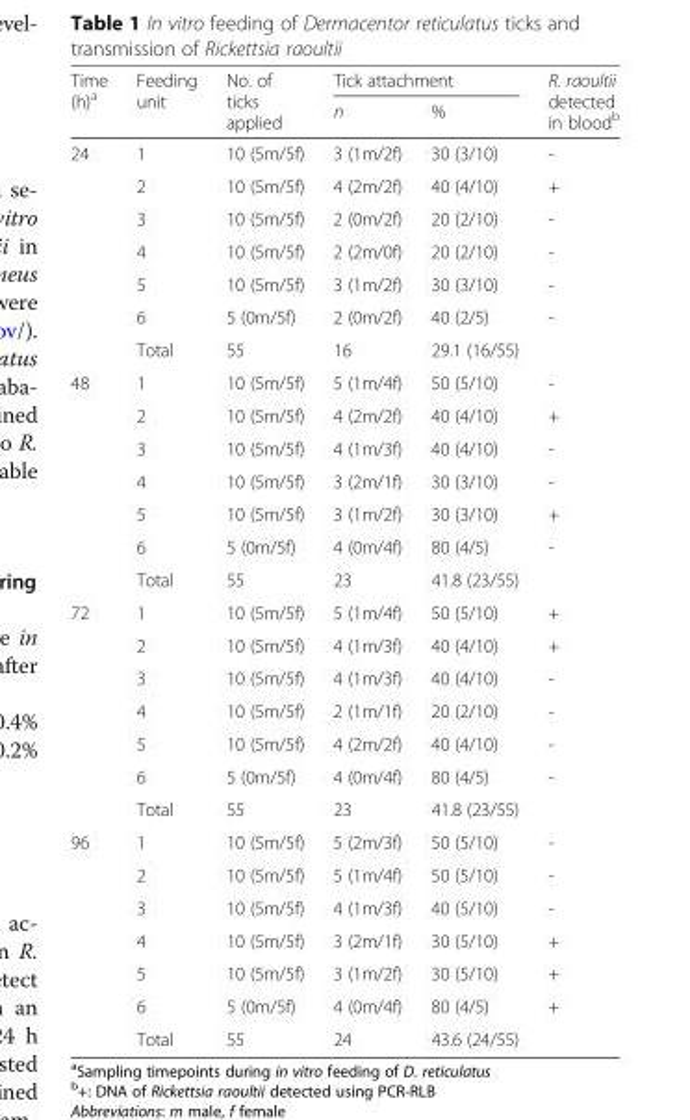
<table><thead><tr><td rowspan="2">Time (h)<sup>a</sup></td><td rowspan="2">Feeding unit</td><td rowspan="2">No. of ticks applied</td><td colspan="2">Tick attachment</td><td rowspan="2">R. raoultii detected in blood<sup>b</sup></td></tr><tr><td>n</td><td>%</td></tr></thead><tbody><tr><td rowspan="7">24</td><td>1</td><td>10 (5m/5f)</td><td>3 (1m/2f)</td><td>30 (3/10)</td><td>-</td></tr><tr><td>2</td><td>10 (5m/5f)</td><td>4 (2m/2f)</td><td>40 (4/10)</td><td>+</td></tr><tr><td>3</td><td>10 (5m/5f)</td><td>2 (0m/2f)</td><td>20 (2/10)</td><td>-</td></tr><tr><td>4</td><td>10 (5m/5f)</td><td>2 (2m/0f)</td><td>20 (2/10)</td><td>-</td></tr><tr><td>5</td><td>10 (5m/5f)</td><td>3 (1m/2f)</td><td>30 (3/10)</td><td>-</td></tr><tr><td>6</td><td>5 (0m/5f)</td><td>2 (0m/2f)</td><td>40 (2/5)</td><td>-</td></tr><tr><td>Total</td><td>55</td><td>16</td><td>29.1 (16/55)</td><td></td></tr><tr><td rowspan="7">48</td><td>1</td><td>10 (5m/5f)</td><td>5 (1m/4f)</td><td>50 (5/10)</td><td>-</td></tr><tr><td>2</td><td>10 (5m/5f)</td><td>4 (2m/2f)</td><td>40 (4/10)</td><td>+</td></tr><tr><td>3</td><td>10 (5m/5f)</td><td>4 (1m/3f)</td><td>40 (4/10)</td><td>-</td></tr><tr><td>4</td><td>10 (5m/5f)</td><td>3 (2m/1f)</td><td>30 (3/10)</td><td>-</td></tr><tr><td>5</td><td>10 (5m/5f)</td><td>3 (1m/2f)</td><td>30 (3/10)</td><td>+</td></tr><tr><td>6</td><td>5 (0m/5f)</td><td>4 (0m/4f)</td><td>80 (4/5)</td><td>-</td></tr><tr><td>Total</td><td>55</td><td>23</td><td>41.8 (23/55)</td><td></td></tr><tr><td rowspan="7">72</td><td>1</td><td>10 (5m/5f)</td><td>5 (1m/4f)</td><td>50 (5/10)</td><td>+</td></tr><tr><td>2</td><td>10 (5m/5f)</td><td>4 (1m/3f)</td><td>40 (4/10)</td><td>+</td></tr><tr><td>3</td><td>10 (5m/5f)</td><td>4 (1m/3f)</td><td>40 (4/10)</td><td>-</td></tr><tr><td>4</td><td>10 (5m/5f)</td><td>2 (1m/1f)</td><td>20 (2/10)</td><td>-</td></tr><tr><td>5</td><td>10 (5m/5f)</td><td>4 (2m/2f)</td><td>40 (4/10)</td><td>-</td></tr><tr><td>6</td><td>5 (0m/5f)</td><td>4 (0m/4f)</td><td>80 (4/5)</td><td>-</td></tr><tr><td>Total</td><td>55</td><td>23</td><td>41.8 (23/55)</td><td></td></tr><tr><td rowspan="7">96</td><td>1</td><td>10 (5m/5f)</td><td>5 (2m/3f)</td><td>50 (5/10)</td><td>-</td></tr><tr><td>2</td><td>10 (5m/5f)</td><td>5 (1m/4f)</td><td>50 (5/10)</td><td>-</td></tr><tr><td>3</td><td>10 (5m/5f)</td><td>4 (1m/3f)</td><td>40 (5/10)</td><td>-</td></tr><tr><td>4</td><td>10 (5m/5f)</td><td>3 (2m/1f)</td><td>30 (5/10)</td><td>+</td></tr><tr><td>5</td><td>10 (5m/5f)</td><td>3 (1m/2f)</td><td>30 (5/10)</td><td>+</td></tr><tr><td>6</td><td>5 (0m/5f)</td><td>4 (0m/4f)</td><td>80 (4/5)</td><td>+</td></tr><tr><td>Total</td><td>55</td><td>24</td><td>43.6 (24/55)</td><td></td></tr></tbody></table>